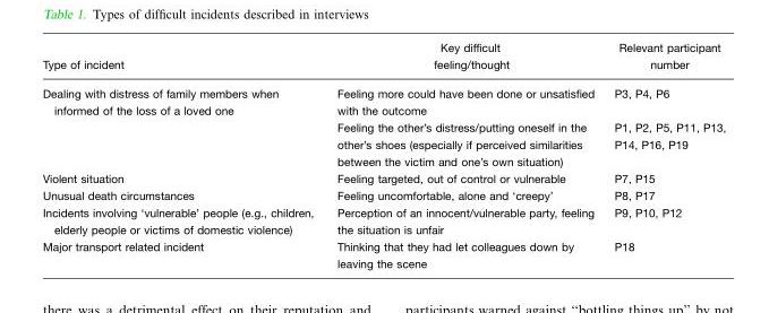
<table><thead><tr><td>Type of incident</td><td>Key difficult feeling/thought</td><td>Relevant participant number</td></tr></thead><tbody><tr><td rowspan="2">Dealing with distress of family members when informed of the loss of a loved one</td><td>Feeling more could have been done or unsatisfied with the outcome</td><td>P3, P4, P6</td></tr><tr><td>Feeling the other’s distress/putting oneself in the other’s shoes (especially if perceived similarities between the victim and one’s own situation)</td><td>P1, P2, P5, P11, P13, P14, P16, P19</td></tr><tr><td>Violent situation</td><td>Feeling targeted, out of control or vulnerable</td><td>P7, P15</td></tr><tr><td>Unusual death circumstances</td><td>Feeling uncomfortable, alone and ‘creepy’</td><td>P8, P17</td></tr><tr><td>Incidents involving ‘vulnerable’ people (e.g., children, elderly people or victims of domestic violence)</td><td>Perception of an innocent/vulnerable party, feeling the situation is unfair</td><td>P9, P10, P12</td></tr><tr><td>Major transport related incident</td><td>Thinking that they had let colleagues down by leaving the scene</td><td>P18</td></tr></tbody></table>